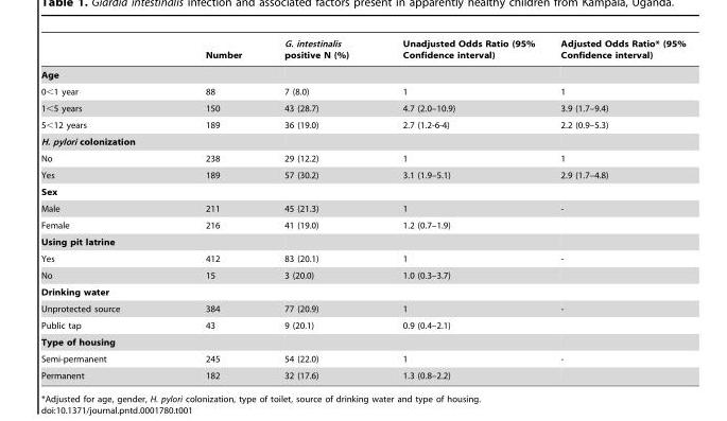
<table><thead><tr><td></td><td>Number</td><td>G. intestinalis positive N (%)</td><td>Unadjusted Odds Ratio (95% Confidence interval)</td><td>Adjusted Odds Ratio* (95% Confidence interval)</td></tr></thead><tbody><tr><td colspan="5">Age</td></tr><tr><td>0&lt;1 year</td><td>88</td><td>7 (8.0)</td><td>1</td><td>1</td></tr><tr><td>1&lt;5 years</td><td>150</td><td>43 (28.7)</td><td>4.7 (2.0–10.9)</td><td>3.9 (1.7–9.4)</td></tr><tr><td>5&lt;12 years</td><td>189</td><td>36 (19.0)</td><td>2.7 (1.2-6-4)</td><td>2.2 (0.9–5.3)</td></tr><tr><td colspan="5">H. pylori colonization</td></tr><tr><td>No</td><td>238</td><td>29 (12.2)</td><td>1</td><td>1</td></tr><tr><td>Yes</td><td>189</td><td>57 (30.2)</td><td>3.1 (1.9–5.1)</td><td>2.9 (1.7–4.8)</td></tr><tr><td colspan="5">Sex</td></tr><tr><td>Male</td><td>211</td><td>45 (21.3)</td><td>1</td><td>-</td></tr><tr><td>Female</td><td>216</td><td>41 (19.0)</td><td>1.2 (0.7–1.9)</td><td></td></tr><tr><td colspan="5">Using pit latrine</td></tr><tr><td>Yes</td><td>412</td><td>83 (20.1)</td><td>1</td><td>-</td></tr><tr><td>No</td><td>15</td><td>3 (20.0)</td><td>1.0 (0.3–3.7)</td><td></td></tr><tr><td colspan="5">Drinking water</td></tr><tr><td>Unprotected source</td><td>384</td><td>77 (20.9)</td><td>1</td><td>-</td></tr><tr><td>Public tap</td><td>43</td><td>9 (20.1)</td><td>0.9 (0.4–2.1)</td><td></td></tr><tr><td colspan="5">Type of housing</td></tr><tr><td>Semi-permanent</td><td>245</td><td>54 (22.0)</td><td>1</td><td>-</td></tr><tr><td>Permanent</td><td>182</td><td>32 (17.6)</td><td>1.3 (0.8–2.2)</td><td></td></tr></tbody></table>